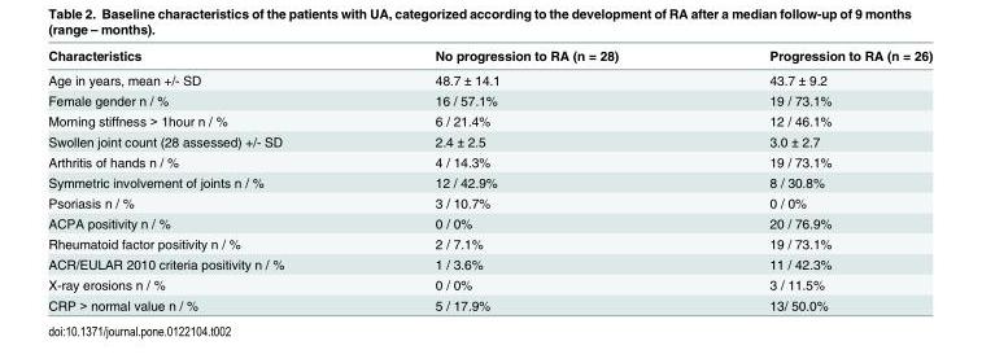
<table><thead><tr><td>Characteristics</td><td>No progression to RA (n = 28)</td><td>Progression to RA (n = 26)</td></tr></thead><tbody><tr><td>Age in years, mean +/- SD</td><td>48.7 ± 14.1</td><td>43.7 ± 9.2</td></tr><tr><td>Female gender n / %</td><td>16 / 57.1%</td><td>19 / 73.1%</td></tr><tr><td>Morning stiffness &gt; 1hour n / %</td><td>6 / 21.4%</td><td>12 / 46.1%</td></tr><tr><td>Swollen joint count (28 assessed) +/- SD</td><td>2.4 ± 2.5</td><td>3.0 ± 2.7</td></tr><tr><td>Arthritis of hands n / %</td><td>4 / 14.3%</td><td>19 / 73.1%</td></tr><tr><td>Symmetric involvement of joints n / %</td><td>12 / 42.9%</td><td>8 / 30.8%</td></tr><tr><td>Psoriasis n / %</td><td>3 / 10.7%</td><td>0 / 0%</td></tr><tr><td>ACPA positivity n / %</td><td>0 / 0%</td><td>20 / 76.9%</td></tr><tr><td>Rheumatoid factor positivity n / %</td><td>2 / 7.1%</td><td>19 / 73.1%</td></tr><tr><td>ACR/EULAR 2010 criteria positivity n / %</td><td>1 / 3.6%</td><td>11 / 42.3%</td></tr><tr><td>X-ray erosions n / %</td><td>0 / 0%</td><td>3 / 11.5%</td></tr><tr><td>CRP &gt; normal value n / %</td><td>5 / 17.9%</td><td>13/ 50.0%</td></tr></tbody></table>